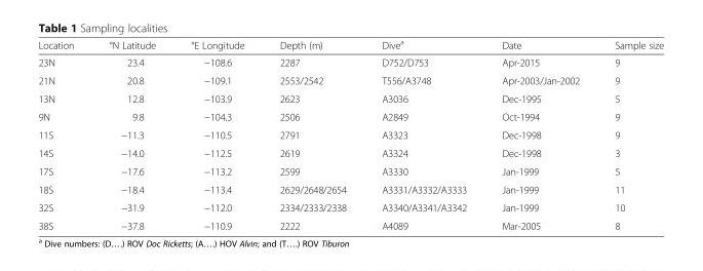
<table><thead><tr><td>Location</td><td>°N Latitude</td><td>°E Longitude</td><td>Depth (m)</td><td>Dive<sup>a</sup></td><td>Date</td><td>Sample size</td></tr></thead><tbody><tr><td>23N</td><td>23.4</td><td>−108.6</td><td>2287</td><td>D752/D753</td><td>Apr-2015</td><td>9</td></tr><tr><td>21N</td><td>20.8</td><td>−109.1</td><td>2553/2542</td><td>T556/A3748</td><td>Apr-2003/Jan-2002</td><td>9</td></tr><tr><td>13N</td><td>12.8</td><td>−103.9</td><td>2623</td><td>A3036</td><td>Dec-1995</td><td>5</td></tr><tr><td>9N</td><td>9.8</td><td>−104.3</td><td>2506</td><td>A2849</td><td>Oct-1994</td><td>9</td></tr><tr><td>11S</td><td>−11.3</td><td>−110.5</td><td>2791</td><td>A3323</td><td>Dec-1998</td><td>9</td></tr><tr><td>14S</td><td>−14.0</td><td>−112.5</td><td>2619</td><td>A3324</td><td>Dec-1998</td><td>3</td></tr><tr><td>17S</td><td>−17.6</td><td>−113.2</td><td>2599</td><td>A3330</td><td>Jan-1999</td><td>5</td></tr><tr><td>18S</td><td>−18.4</td><td>−113.4</td><td>2629/2648/2654</td><td>A3331/A3332/A3333</td><td>Jan-1999</td><td>11</td></tr><tr><td>32S</td><td>−31.9</td><td>−112.0</td><td>2334/2333/2338</td><td>A3340/A3341/A3342</td><td>Jan-1999</td><td>10</td></tr><tr><td>38S</td><td>−37.8</td><td>−110.9</td><td>2222</td><td>A4089</td><td>Mar-2005</td><td>8</td></tr></tbody></table>